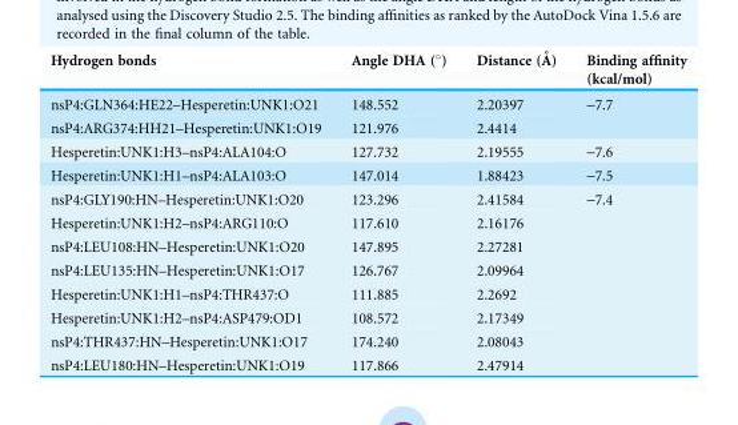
<table><thead><tr><td>Hydrogen bonds</td><td>Angle DHA (°)</td><td>Distance (A˚ )</td><td>Binding affinity (kcal/mol)</td></tr></thead><tbody><tr><td>nsP4:GLN364:HE22–Hesperetin:UNK1:O21</td><td>148.552</td><td>2.20397</td><td rowspan="2">-7.7</td></tr><tr><td>nsP4:ARG374:HH21–Hesperetin:UNK1:O19</td><td>121.976</td><td>2.4414</td></tr><tr><td>Hesperetin:UNK1:H3–nsP4:ALA104:O</td><td>127.732</td><td>2.19555</td><td>-7.6</td></tr><tr><td>Hesperetin:UNK1:H1–nsP4:ALA103:O</td><td>147.014</td><td>1.88423</td><td>-7.5</td></tr><tr><td>nsP4:GLY190:HN–Hesperetin:UNK1:O20</td><td>123.296</td><td>2.41584</td><td rowspan="8">-7.4</td></tr><tr><td>Hesperetin:UNK1:H2–nsP4:ARG110:O</td><td>117.610</td><td>2.16176</td></tr><tr><td>nsP4:LEU108:HN–Hesperetin:UNK1:O20</td><td>147.895</td><td>2.27281</td></tr><tr><td>nsP4:LEU135:HN–Hesperetin:UNK1:O17</td><td>126.767</td><td>2.09964</td></tr><tr><td>Hesperetin:UNK1:H1–nsP4:THR437:O</td><td>111.885</td><td>2.2692</td></tr><tr><td>Hesperetin:UNK1:H2–nsP4:ASP479:OD1</td><td>108.572</td><td>2.17349</td></tr><tr><td>nsP4:THR437:HN–Hesperetin:UNK1:O17</td><td>174.240</td><td>2.08043</td></tr><tr><td>nsP4:LEU180:HN–Hesperetin:UNK1:O19</td><td>117.866</td><td>2.47914</td></tr></tbody></table>